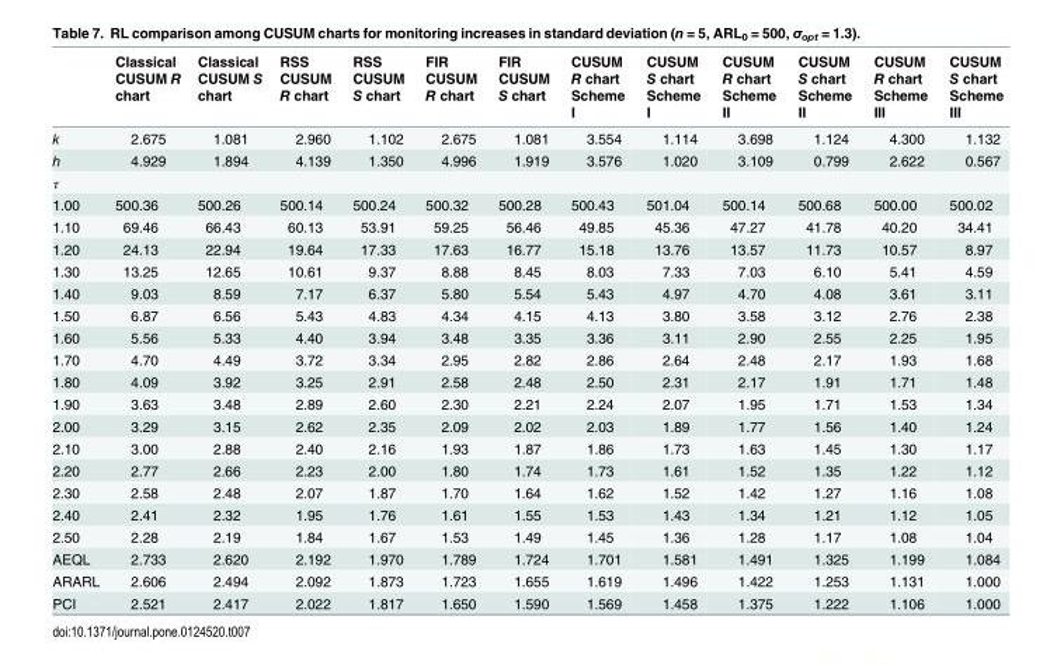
<table><thead><tr><td></td><td>Classical CUSUM R chart</td><td>Classical CUSUM S chart</td><td>RSS CUSUM R chart</td><td>RSS CUSUM S chart</td><td>FIR CUSUM R chart</td><td>FIR CUSUM S chart</td><td>CUSUM R chart Scheme I</td><td>CUSUM S chart Scheme I</td><td>CUSUM R chart Scheme II</td><td>CUSUM S chart Scheme II</td><td>CUSUM R chart Scheme III</td><td>CUSUM S chart Scheme III</td></tr></thead><tbody><tr><td>k</td><td>2.675</td><td>1.081</td><td>2.960</td><td>1.102</td><td>2.675</td><td>1.081</td><td>3.554</td><td>1.114</td><td>3.698</td><td>1.124</td><td>4.300</td><td>1.132</td></tr><tr><td>h</td><td>4.929</td><td>1.894</td><td>4.139</td><td>1.350</td><td>4.996</td><td>1.919</td><td>3.576</td><td>1.020</td><td>3.109</td><td>0.799</td><td>2.622</td><td>0.567</td></tr><tr><td colspan="13">τ</td></tr><tr><td>1.00</td><td>500.36</td><td>500.26</td><td>500.14</td><td>500.24</td><td>500.32</td><td>500.28</td><td>500.43</td><td>501.04</td><td>500.14</td><td>500.68</td><td>500.00</td><td>500.02</td></tr><tr><td>1.10</td><td>69.46</td><td>66.43</td><td>60.13</td><td>53.91</td><td>59.25</td><td>56.46</td><td>49.85</td><td>45.36</td><td>47.27</td><td>41.78</td><td>40.20</td><td>34.41</td></tr><tr><td>1.20</td><td>24.13</td><td>22.94</td><td>19.64</td><td>17.33</td><td>17.63</td><td>16.77</td><td>15.18</td><td>13.76</td><td>13.57</td><td>11.73</td><td>10.57</td><td>8.97</td></tr><tr><td>1.30</td><td>13.25</td><td>12.65</td><td>10.61</td><td>9.37</td><td>8.88</td><td>8.45</td><td>8.03</td><td>7.33</td><td>7.03</td><td>6.10</td><td>5.41</td><td>4.59</td></tr><tr><td>1.40</td><td>9.03</td><td>8.59</td><td>7.17</td><td>6.37</td><td>5.80</td><td>5.54</td><td>5.43</td><td>4.97</td><td>4.70</td><td>4.08</td><td>3.61</td><td>3.11</td></tr><tr><td>1.50</td><td>6.87</td><td>6.56</td><td>5.43</td><td>4.83</td><td>4.34</td><td>4.15</td><td>4.13</td><td>3.80</td><td>3.58</td><td>3.12</td><td>2.76</td><td>2.38</td></tr><tr><td>1.60</td><td>5.56</td><td>5.33</td><td>4.40</td><td>3.94</td><td>3.48</td><td>3.35</td><td>3.36</td><td>3.11</td><td>2.90</td><td>2.55</td><td>2.25</td><td>1.95</td></tr><tr><td>1.70</td><td>4.70</td><td>4.49</td><td>3.72</td><td>3.34</td><td>2.95</td><td>2.82</td><td>2.86</td><td>2.64</td><td>2.48</td><td>2.17</td><td>1.93</td><td>1.68</td></tr><tr><td>1.80</td><td>4.09</td><td>3.92</td><td>3.25</td><td>2.91</td><td>2.58</td><td>2.48</td><td>2.50</td><td>2.31</td><td>2.17</td><td>1.91</td><td>1.71</td><td>1.48</td></tr><tr><td>1.90</td><td>3.63</td><td>3.48</td><td>2.89</td><td>2.60</td><td>2.30</td><td>2.21</td><td>2.24</td><td>2.07</td><td>1.95</td><td>1.71</td><td>1.53</td><td>1.34</td></tr><tr><td>2.00</td><td>3.29</td><td>3.15</td><td>2.62</td><td>2.35</td><td>2.09</td><td>2.02</td><td>2.03</td><td>1.89</td><td>1.77</td><td>1.56</td><td>1.40</td><td>1.24</td></tr><tr><td>2.10</td><td>3.00</td><td>2.88</td><td>2.40</td><td>2.16</td><td>1.93</td><td>1.87</td><td>1.86</td><td>1.73</td><td>1.63</td><td>1.45</td><td>1.30</td><td>1.17</td></tr><tr><td>2.20</td><td>2.77</td><td>2.66</td><td>2.23</td><td>2.00</td><td>1.80</td><td>1.74</td><td>1.73</td><td>1.61</td><td>1.52</td><td>1.35</td><td>1.22</td><td>1.12</td></tr><tr><td>2.30</td><td>2.58</td><td>2.48</td><td>2.07</td><td>1.87</td><td>1.70</td><td>1.64</td><td>1.62</td><td>1.52</td><td>1.42</td><td>1.27</td><td>1.16</td><td>1.08</td></tr><tr><td>2.40</td><td>2.41</td><td>2.32</td><td>1.95</td><td>1.76</td><td>1.61</td><td>1.55</td><td>1.53</td><td>1.43</td><td>1.34</td><td>1.21</td><td>1.12</td><td>1.05</td></tr><tr><td>2.50</td><td>2.28</td><td>2.19</td><td>1.84</td><td>1.67</td><td>1.53</td><td>1.49</td><td>1.45</td><td>1.36</td><td>1.28</td><td>1.17</td><td>1.08</td><td>1.04</td></tr><tr><td>AEQL</td><td>2.733</td><td>2.620</td><td>2.192</td><td>1.970</td><td>1.789</td><td>1.724</td><td>1.701</td><td>1.581</td><td>1.491</td><td>1.325</td><td>1.199</td><td>1.084</td></tr><tr><td>ARARL</td><td>2.606</td><td>2.494</td><td>2.092</td><td>1.873</td><td>1.723</td><td>1.655</td><td>1.619</td><td>1.496</td><td>1.422</td><td>1.253</td><td>1.131</td><td>1.000</td></tr><tr><td>PCI</td><td>2.521</td><td>2.417</td><td>2.022</td><td>1.817</td><td>1.650</td><td>1.590</td><td>1.569</td><td>1.458</td><td>1.375</td><td>1.222</td><td>1.106</td><td>1.000</td></tr></tbody></table>